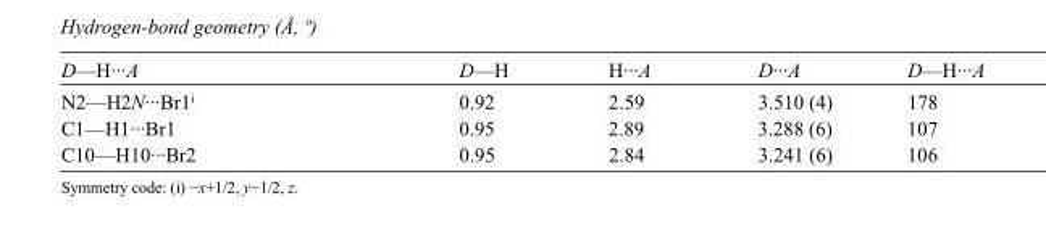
<table><tbody><tr><td>D—H···A</td><td>D—H</td><td>H···A</td><td>D···A</td><td>D—H···A</td></tr><tr><td>N2—H2N···Br1<sup>i</sup></td><td>0.92</td><td>2.59</td><td>3.510 (4)</td><td>178</td></tr><tr><td>C1—H1···Br1</td><td>0.95</td><td>2.89</td><td>3.288 (6)</td><td>107</td></tr><tr><td>C10—H10···Br2</td><td>0.95</td><td>2.84</td><td>3.241 (6)</td><td>106</td></tr></tbody></table>